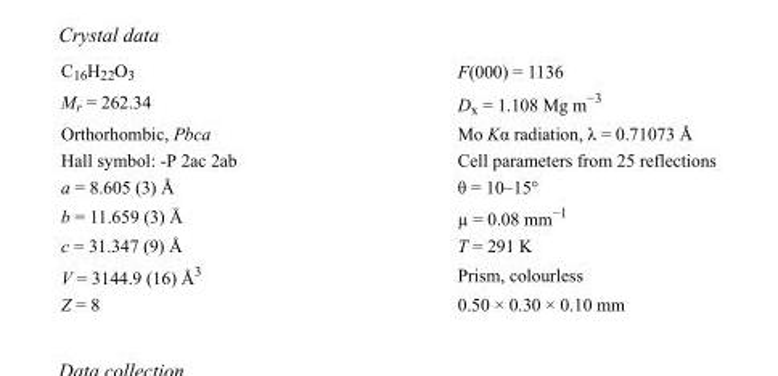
<table><tbody><tr><td>C<sub>16</sub>H<sub>22</sub>O<sub>3</sub></td><td>F(000) = 1136</td></tr><tr><td>M<sub>r</sub> = 262.34</td><td>D<sub>x</sub> = 1.108 Mg m<sup>−3</sup></td></tr><tr><td>Orthorhombic, Pbca</td><td>Mo Kα radiation, λ = 0.71073 Å</td></tr><tr><td>Hall symbol: -P 2ac 2ab</td><td>Cell parameters from 25 reflections</td></tr><tr><td>a = 8.605 (3) Å</td><td>θ = 10–15°</td></tr><tr><td>b = 11.659 (3) Å</td><td>µ = 0.08 mm<sup>−1</sup></td></tr><tr><td>c = 31.347 (9) Å</td><td>T = 291 K</td></tr><tr><td>V = 3144.9 (16) Å<sup>3</sup></td><td>Prism, colourless</td></tr><tr><td>Z = 8</td><td>0.50 × 0.30 × 0.10 mm</td></tr></tbody></table>